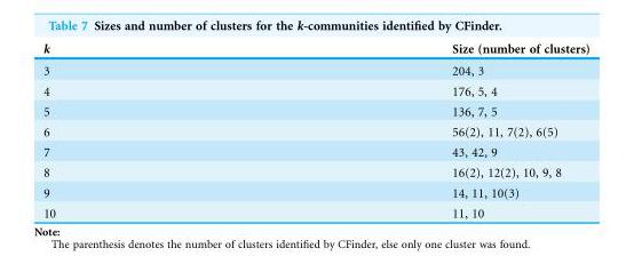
<table><thead><tr><td>k</td><td>Size (number of clusters)</td></tr></thead><tbody><tr><td>3</td><td>204, 3</td></tr><tr><td>4</td><td>176, 5, 4</td></tr><tr><td>5</td><td>136, 7, 5</td></tr><tr><td>6</td><td>56(2), 11, 7(2), 6(5)</td></tr><tr><td>7</td><td>43, 42, 9</td></tr><tr><td>8</td><td>16(2), 12(2), 10, 9, 8</td></tr><tr><td>9</td><td>14, 11, 10(3)</td></tr><tr><td>10</td><td>11, 10</td></tr></tbody></table>